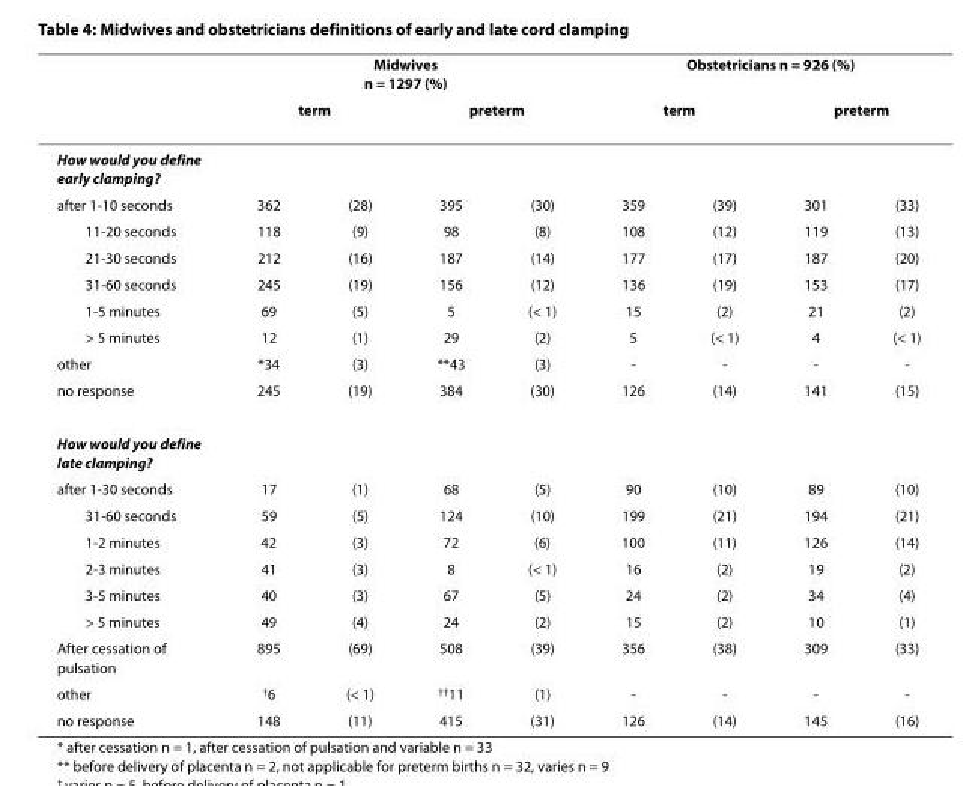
<table><thead><tr><td rowspan="3">How would you define early clamping?</td><td colspan="4">Midwives n = 1297 (%)</td><td colspan="4">Obstetricians n = 926 (%)</td></tr><tr><td colspan="2">term</td><td colspan="2">preterm</td><td colspan="2">term</td><td colspan="2">preterm</td></tr><tr><td></td><td></td><td></td><td></td><td></td><td></td><td></td><td></td></tr></thead><tbody><tr><td>after 1-10 seconds</td><td>362</td><td>(28)</td><td>395</td><td>(30)</td><td>359</td><td>(39)</td><td>301</td><td>(33)</td></tr><tr><td>11-20 seconds</td><td>118</td><td>(9)</td><td>98</td><td>(8)</td><td>108</td><td>(12)</td><td>119</td><td>(13)</td></tr><tr><td>21-30 seconds</td><td>212</td><td>(16)</td><td>187</td><td>(14)</td><td>177</td><td>(17)</td><td>187</td><td>(20)</td></tr><tr><td>31-60 seconds</td><td>245</td><td>(19)</td><td>156</td><td>(12)</td><td>136</td><td>(19)</td><td>153</td><td>(17)</td></tr><tr><td>1-5 minutes</td><td>69</td><td>(5)</td><td>5</td><td>(&lt; 1)</td><td>15</td><td>(2)</td><td>21</td><td>(2)</td></tr><tr><td>&gt; 5 minutes</td><td>12</td><td>(1)</td><td>29</td><td>(2)</td><td>5</td><td>(&lt; 1)</td><td>4</td><td>(&lt; 1)</td></tr><tr><td>other</td><td>*34</td><td>(3)</td><td>**43</td><td>(3)</td><td>-</td><td>-</td><td>-</td><td>-</td></tr><tr><td>no response</td><td>245</td><td>(19)</td><td>384</td><td>(30)</td><td>126</td><td>(14)</td><td>141</td><td>(15)</td></tr><tr><td colspan="9">How would you define late clamping?</td></tr><tr><td>after 1-30 seconds</td><td>17</td><td>(1)</td><td>68</td><td>(5)</td><td>90</td><td>(10)</td><td>89</td><td>(10)</td></tr><tr><td>31-60 seconds</td><td>59</td><td>(5)</td><td>124</td><td>(10)</td><td>199</td><td>(21)</td><td>194</td><td>(21)</td></tr><tr><td>1-2 minutes</td><td>42</td><td>(3)</td><td>72</td><td>(6)</td><td>100</td><td>(11)</td><td>126</td><td>(14)</td></tr><tr><td>2-3 minutes</td><td>41</td><td>(3)</td><td>8</td><td>(&lt; 1)</td><td>16</td><td>(2)</td><td>19</td><td>(2)</td></tr><tr><td>3-5 minutes</td><td>40</td><td>(3)</td><td>67</td><td>(5)</td><td>24</td><td>(2)</td><td>34</td><td>(4)</td></tr><tr><td>&gt; 5 minutes</td><td>49</td><td>(4)</td><td>24</td><td>(2)</td><td>15</td><td>(2)</td><td>10</td><td>(1)</td></tr><tr><td>After cessation of pulsation</td><td>895</td><td>(69)</td><td>508</td><td>(39)</td><td>356</td><td>(38)</td><td>309</td><td>(33)</td></tr><tr><td>other</td><td><sup>†</sup>6</td><td>(&lt; 1)</td><td><sup>††</sup>11</td><td>(1)</td><td>-</td><td>-</td><td>-</td><td>-</td></tr><tr><td>no response</td><td>148</td><td>(11)</td><td>415</td><td>(31)</td><td>126</td><td>(14)</td><td>145</td><td>(16)</td></tr></tbody></table>